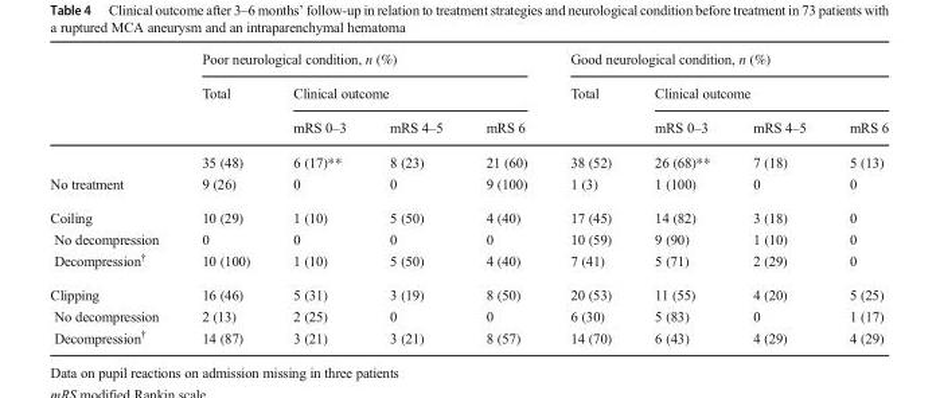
<table><thead><tr><td rowspan="3"></td><td colspan="4">Poor neurological condition, n (%)</td><td colspan="4">Good neurological condition, n (%)</td></tr><tr><td rowspan="2">Total</td><td colspan="3">Clinical outcome</td><td rowspan="2">Total</td><td colspan="3">Clinical outcome</td></tr><tr><td>mRS 0–3</td><td>mRS 4–5</td><td>mRS 6</td><td>mRS 0–3</td><td>mRS 4–5</td><td>mRS 6</td></tr></thead><tbody><tr><td></td><td>35 (48)</td><td>6 (17)**</td><td>8 (23)</td><td>21 (60)</td><td>38 (52)</td><td>26 (68)**</td><td>7 (18)</td><td>5 (13)</td></tr><tr><td>No treatment</td><td>9 (26)</td><td>0</td><td>0</td><td>9 (100)</td><td>1 (3)</td><td>1 (100)</td><td>0</td><td>0</td></tr><tr><td>Coiling</td><td>10 (29)</td><td>1 (10)</td><td>5 (50)</td><td>4 (40)</td><td>17 (45)</td><td>14 (82)</td><td>3 (18)</td><td>0</td></tr><tr><td>No decompression</td><td>0</td><td>0</td><td>0</td><td>0</td><td>10 (59)</td><td>9 (90)</td><td>1 (10)</td><td>0</td></tr><tr><td>Decompression<sup>†</sup></td><td>10 (100)</td><td>1 (10)</td><td>5 (50)</td><td>4 (40)</td><td>7 (41)</td><td>5 (71)</td><td>2 (29)</td><td>0</td></tr><tr><td>Clipping</td><td>16 (46)</td><td>5 (31)</td><td>3 (19)</td><td>8 (50)</td><td>20 (53)</td><td>11 (55)</td><td>4 (20)</td><td>5 (25)</td></tr><tr><td>No decompression</td><td>2 (13)</td><td>2 (25)</td><td>0</td><td>0</td><td>6 (30)</td><td>5 (83)</td><td>0</td><td>1 (17)</td></tr><tr><td>Decompression<sup>†</sup></td><td>14 (87)</td><td>3 (21)</td><td>3 (21)</td><td>8 (57)</td><td>14 (70)</td><td>6 (43)</td><td>4 (29)</td><td>4 (29)</td></tr></tbody></table>